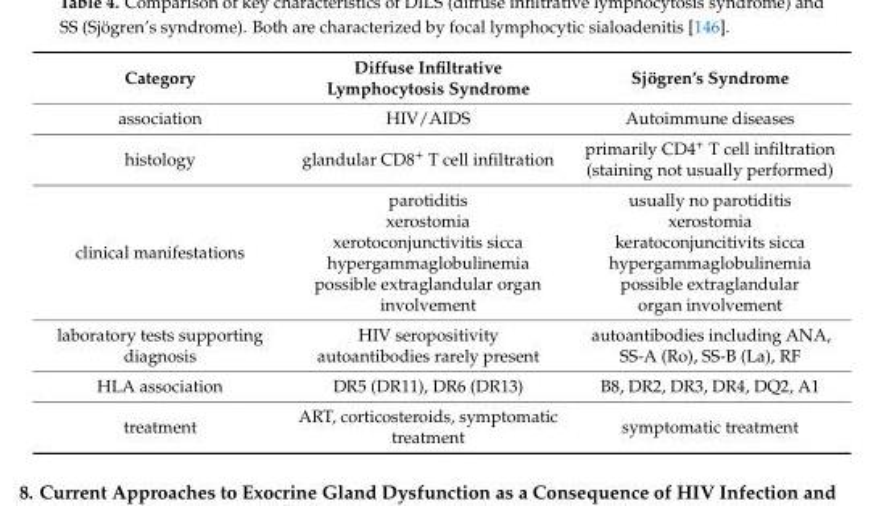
<table><thead><tr><td>Category</td><td>Diffuse Infiltrative Lymphocytosis Syndrome</td><td>Sjögren’s Syndrome</td></tr></thead><tbody><tr><td>association</td><td>HIV/AIDS</td><td>Autoimmune diseases</td></tr><tr><td>histology</td><td>glandular CD8<sup>+</sup> T cell infiltration</td><td>primarily CD4<sup>+</sup> T cell infiltration (staining not usually performed)</td></tr><tr><td>clinical manifestations</td><td>parotiditis xerostomia xerotoconjunctivitis sicca hypergammaglobulinemia possible extraglandular organ involvement</td><td>usually no parotiditis xerostomia keratoconjuncitivits sicca hypergammaglobulinemia possible extraglandular organ involvement</td></tr><tr><td>laboratory tests supporting diagnosis</td><td>HIV seropositivity autoantibodies rarely present</td><td>autoantibodies including ANA, SS-A (Ro), SS-B (La), RF</td></tr><tr><td>HLA association</td><td>DR5 (DR11), DR6 (DR13)</td><td>B8, DR2, DR3, DR4, DQ2, A1</td></tr><tr><td>treatment</td><td>ART, corticosteroids, symptomatic treatment</td><td>symptomatic treatment</td></tr></tbody></table>